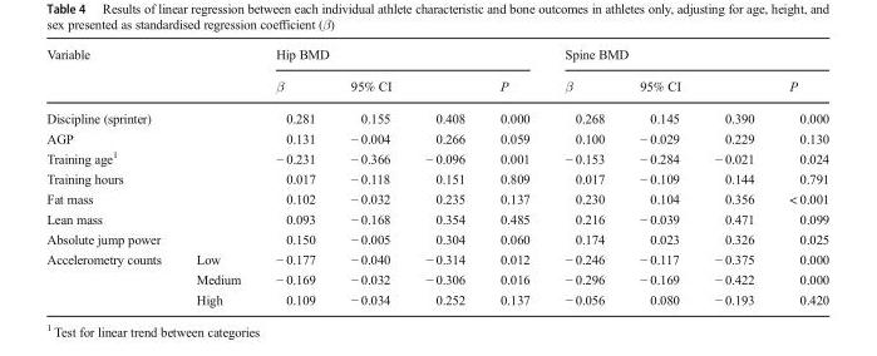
<table><thead><tr><td rowspan="2" colspan="2">Variable</td><td colspan="4">Hip BMD</td><td colspan="4">Spine BMD</td></tr><tr><td>β</td><td colspan="2">95% CI</td><td>P</td><td>β</td><td colspan="2">95% CI</td><td>P</td></tr></thead><tbody><tr><td colspan="2">Discipline (sprinter)</td><td>0.281</td><td>0.155</td><td>0.408</td><td>0.000</td><td>0.268</td><td>0.145</td><td>0.390</td><td>0.000</td></tr><tr><td colspan="2">AGP</td><td>0.131</td><td>− 0.004</td><td>0.266</td><td>0.059</td><td>0.100</td><td>− 0.029</td><td>0.229</td><td>0.130</td></tr><tr><td colspan="2">Training age<sup>1</sup></td><td>− 0.231</td><td>− 0.366</td><td>− 0.096</td><td>0.001</td><td>− 0.153</td><td>− 0.284</td><td>− 0.021</td><td>0.024</td></tr><tr><td colspan="2">Training hours</td><td>0.017</td><td>− 0.118</td><td>0.151</td><td>0.809</td><td>0.017</td><td>− 0.109</td><td>0.144</td><td>0.791</td></tr><tr><td colspan="2">Fat mass</td><td>0.102</td><td>− 0.032</td><td>0.235</td><td>0.137</td><td>0.230</td><td>0.104</td><td>0.356</td><td>&lt; 0.001</td></tr><tr><td colspan="2">Lean mass</td><td>0.093</td><td>− 0.168</td><td>0.354</td><td>0.485</td><td>0.216</td><td>− 0.039</td><td>0.471</td><td>0.099</td></tr><tr><td colspan="2">Absolute jump power</td><td>0.150</td><td>− 0.005</td><td>0.304</td><td>0.060</td><td>0.174</td><td>0.023</td><td>0.326</td><td>0.025</td></tr><tr><td rowspan="3">Accelerometry counts</td><td>Low</td><td>− 0.177</td><td>− 0.040</td><td>− 0.314</td><td>0.012</td><td>− 0.246</td><td>− 0.117</td><td>− 0.375</td><td>0.000</td></tr><tr><td>Medium</td><td>− 0.169</td><td>− 0.032</td><td>− 0.306</td><td>0.016</td><td>− 0.296</td><td>− 0.169</td><td>− 0.422</td><td>0.000</td></tr><tr><td>High</td><td>0.109</td><td>− 0.034</td><td>0.252</td><td>0.137</td><td>− 0.056</td><td>0.080</td><td>− 0.193</td><td>0.420</td></tr></tbody></table>